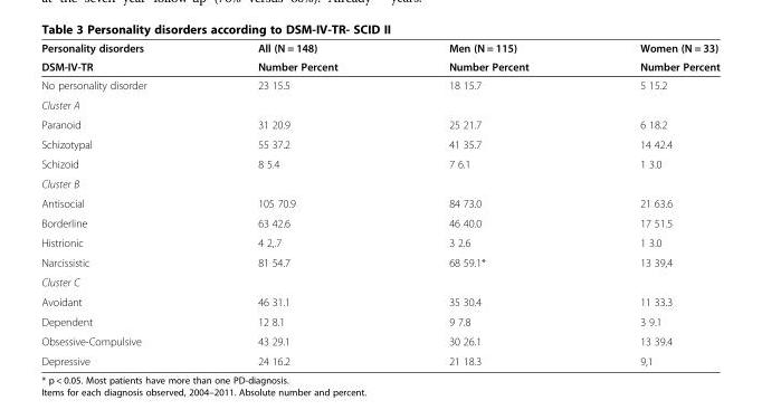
<table><thead><tr><td rowspan="2">Personality disorders DSM-IV-TR</td><td rowspan="2">All (N = 148) Number Percent</td><td rowspan="2">Men (N = 115) Number Percent</td><td rowspan="2">Women (N = 33) Number Percent</td></tr><tr></tr></thead><tbody><tr><td>No personality disorder</td><td>23 15.5</td><td>18 15.7</td><td>5 15.2</td></tr><tr><td colspan="4">Cluster A</td></tr><tr><td>Paranoid</td><td>31 20.9</td><td>25 21.7</td><td>6 18.2</td></tr><tr><td>Schizotypal</td><td>55 37.2</td><td>41 35.7</td><td>14 42.4</td></tr><tr><td>Schizoid</td><td>8 5.4</td><td>7 6.1</td><td>1 3.0</td></tr><tr><td colspan="4">Cluster B</td></tr><tr><td>Antisocial</td><td>105 70.9</td><td>84 73.0</td><td>21 63.6</td></tr><tr><td>Borderline</td><td>63 42.6</td><td>46 40.0</td><td>17 51.5</td></tr><tr><td>Histrionic</td><td>4 2,.7</td><td>3 2.6</td><td>1 3.0</td></tr><tr><td>Narcissistic</td><td>81 54.7</td><td>68 59.1*</td><td>13 39,4</td></tr><tr><td colspan="4">Cluster C</td></tr><tr><td>Avoidant</td><td>46 31.1</td><td>35 30.4</td><td>11 33.3</td></tr><tr><td>Dependent</td><td>12 8.1</td><td>9 7.8</td><td>3 9.1</td></tr><tr><td>Obsessive-Compulsive</td><td>43 29.1</td><td>30 26.1</td><td>13 39.4</td></tr><tr><td>Depressive</td><td>24 16.2</td><td>21 18.3</td><td>9,1</td></tr></tbody></table>